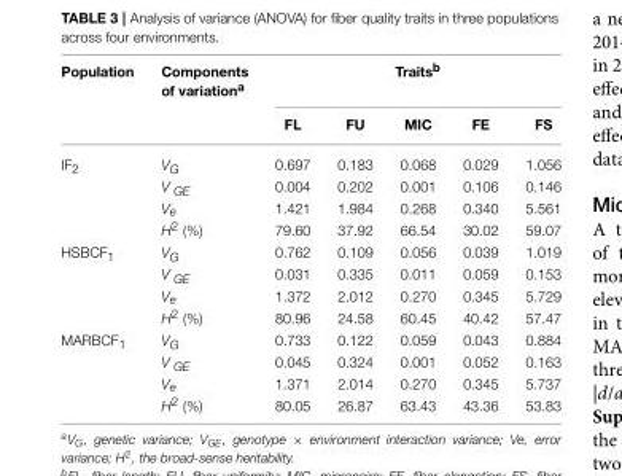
<table><thead><tr><td rowspan="2">Population</td><td rowspan="2">Components of variation<sup>a</sup></td><td colspan="5">Traits<sup>b</sup></td></tr><tr><td>FL</td><td>FU</td><td>MIC</td><td>FE</td><td>FS</td></tr></thead><tbody><tr><td rowspan="4">IF<sub>2</sub></td><td>VG</td><td>0.697</td><td>0.183</td><td>0.068</td><td>0.029</td><td>1.056</td></tr><tr><td>V GE</td><td>0.004</td><td>0.202</td><td>0.001</td><td>0.106</td><td>0.146</td></tr><tr><td>Ve</td><td>1.421</td><td>1.984</td><td>0.268</td><td>0.340</td><td>5.561</td></tr><tr><td>H<sup>2</sup> (%)</td><td>79.60</td><td>37.92</td><td>66.54</td><td>30.02</td><td>59.07</td></tr><tr><td rowspan="4">HSBCF<sub>1</sub></td><td>VG</td><td>0.762</td><td>0.109</td><td>0.056</td><td>0.039</td><td>1.019</td></tr><tr><td>V GE</td><td>0.031</td><td>0.335</td><td>0.011</td><td>0.059</td><td>0.153</td></tr><tr><td>Ve</td><td>1.372</td><td>2.012</td><td>0.270</td><td>0.345</td><td>5.729</td></tr><tr><td>H<sup>2</sup> (%)</td><td>80.96</td><td>24.58</td><td>60.45</td><td>40.42</td><td>57.47</td></tr><tr><td rowspan="4">MARBCF<sub>1</sub></td><td>VG</td><td>0.733</td><td>0.122</td><td>0.059</td><td>0.043</td><td>0.884</td></tr><tr><td>V GE</td><td>0.045</td><td>0.324</td><td>0.001</td><td>0.052</td><td>0.163</td></tr><tr><td>Ve</td><td>1.371</td><td>2.014</td><td>0.270</td><td>0.345</td><td>5.737</td></tr><tr><td>H<sup>2</sup> (%)</td><td>80.05</td><td>26.87</td><td>63.43</td><td>43.36</td><td>53.83</td></tr></tbody></table>